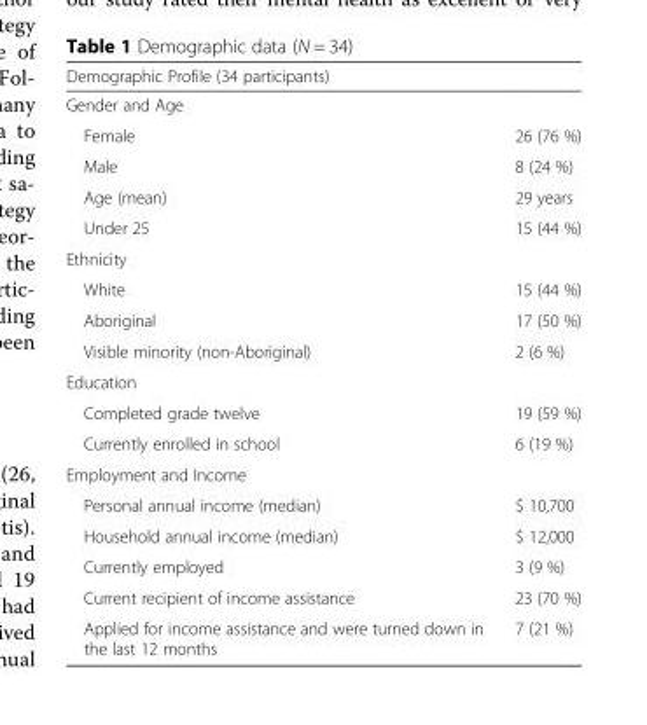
<table><thead><tr><td>Demographic Profile (34 participants)</td><td></td></tr></thead><tbody><tr><td colspan="2">Gender and Age</td></tr><tr><td>Female</td><td>26 (76 %)</td></tr><tr><td>Male</td><td>8 (24 %)</td></tr><tr><td>Age (mean)</td><td>29 years</td></tr><tr><td>Under 25</td><td>15 (44 %)</td></tr><tr><td colspan="2">Ethnicity</td></tr><tr><td>White</td><td>15 (44 %)</td></tr><tr><td>Aboriginal</td><td>17 (50 %)</td></tr><tr><td>Visible minority (non-Aboriginal)</td><td>2 (6 %)</td></tr><tr><td colspan="2">Education</td></tr><tr><td>Completed grade twelve</td><td>19 (59 %)</td></tr><tr><td>Currently enrolled in school</td><td>6 (19 %)</td></tr><tr><td colspan="2">Employment and Income</td></tr><tr><td>Personal annual income (median)</td><td>$ 10,700</td></tr><tr><td>Household annual income (median)</td><td>$ 12,000</td></tr><tr><td>Currently employed</td><td>3 (9 %)</td></tr><tr><td>Current recipient of income assistance</td><td>23 (70 %)</td></tr><tr><td>Applied for income assistance and were turned down in the last 12 months</td><td>7 (21 %)</td></tr></tbody></table>